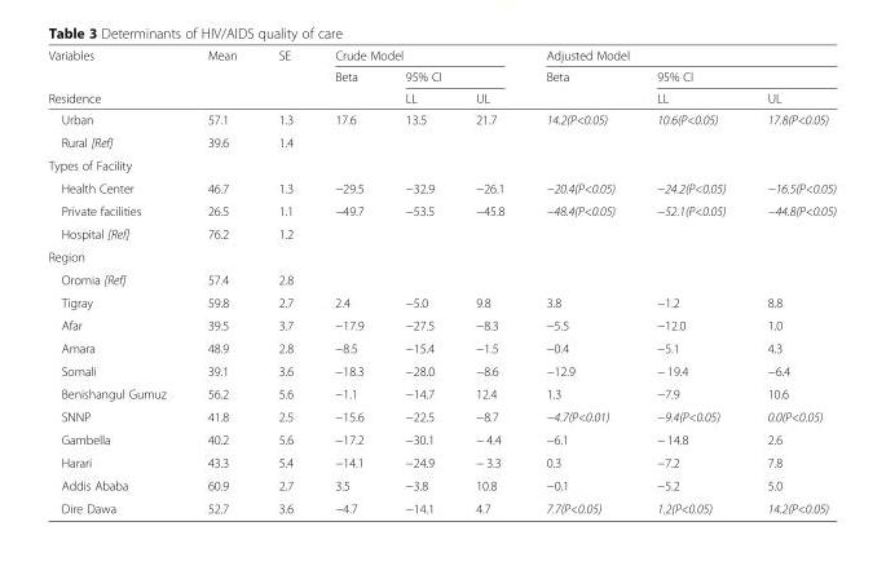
<table><thead><tr><td rowspan="3">Variables Residence</td><td rowspan="3">Mean</td><td rowspan="3">SE</td><td colspan="3">Crude Model</td><td colspan="3">Adjusted Model</td></tr><tr><td rowspan="2">Beta</td><td colspan="2">95% CI</td><td rowspan="2">Beta</td><td colspan="2">95% CI</td></tr><tr><td>LL</td><td>UL</td><td>LL</td><td>UL</td></tr></thead><tbody><tr><td>Urban</td><td>57.1</td><td>1.3</td><td>17.6</td><td>13.5</td><td>21.7</td><td>14.2(P&lt;0.05)</td><td>10.6(P&lt;0.05)</td><td>17.8(P&lt;0.05)</td></tr><tr><td>Rural [Ref]</td><td>39.6</td><td>1.4</td><td></td><td></td><td></td><td></td><td></td><td></td></tr><tr><td colspan="9">Types of Facility</td></tr><tr><td>Health Center</td><td>46.7</td><td>1.3</td><td>−29.5</td><td>−32.9</td><td>−26.1</td><td>−20.4(P&lt;0.05)</td><td>−24.2(P&lt;0.05)</td><td>−16.5(P&lt;0.05)</td></tr><tr><td>Private facilities</td><td>26.5</td><td>1.1</td><td>−49.7</td><td>−53.5</td><td>−45.8</td><td>−48.4(P&lt;0.05)</td><td>−52.1(P&lt;0.05)</td><td>−44.8(P&lt;0.05)</td></tr><tr><td>Hospital [Ref]</td><td>76.2</td><td>1.2</td><td></td><td></td><td></td><td></td><td></td><td></td></tr><tr><td colspan="9">Region</td></tr><tr><td>Oromia [Ref]</td><td>57.4</td><td>2.8</td><td></td><td></td><td></td><td></td><td></td><td></td></tr><tr><td>Tigray</td><td>59.8</td><td>2.7</td><td>2.4</td><td>−5.0</td><td>9.8</td><td>3.8</td><td>−1.2</td><td>8.8</td></tr><tr><td>Afar</td><td>39.5</td><td>3.7</td><td>−17.9</td><td>−27.5</td><td>−8.3</td><td>−5.5</td><td>−12.0</td><td>1.0</td></tr><tr><td>Amara</td><td>48.9</td><td>2.8</td><td>−8.5</td><td>−15.4</td><td>−1.5</td><td>−0.4</td><td>−5.1</td><td>4.3</td></tr><tr><td>Somali</td><td>39.1</td><td>3.6</td><td>−18.3</td><td>−28.0</td><td>−8.6</td><td>−12.9</td><td>− 19.4</td><td>−6.4</td></tr><tr><td>Benishangul Gumuz</td><td>56.2</td><td>5.6</td><td>−1.1</td><td>−14.7</td><td>12.4</td><td>1.3</td><td>−7.9</td><td>10.6</td></tr><tr><td>SNNP</td><td>41.8</td><td>2.5</td><td>−15.6</td><td>−22.5</td><td>−8.7</td><td>−4.7(P&lt;0.01)</td><td>−9.4(P&lt;0.05)</td><td>0.0(P&lt;0.05)</td></tr><tr><td>Gambella</td><td>40.2</td><td>5.6</td><td>−17.2</td><td>−30.1</td><td>− 4.4</td><td>−6.1</td><td>− 14.8</td><td>2.6</td></tr><tr><td>Harari</td><td>43.3</td><td>5.4</td><td>−14.1</td><td>−24.9</td><td>− 3.3</td><td>0.3</td><td>−7.2</td><td>7.8</td></tr><tr><td>Addis Ababa</td><td>60.9</td><td>2.7</td><td>3.5</td><td>−3.8</td><td>10.8</td><td>−0.1</td><td>−5.2</td><td>5.0</td></tr><tr><td>Dire Dawa</td><td>52.7</td><td>3.6</td><td>−4.7</td><td>−14.1</td><td>4.7</td><td>7.7(P&lt;0.05)</td><td>1.2(P&lt;0.05)</td><td>14.2(P&lt;0.05)</td></tr></tbody></table>